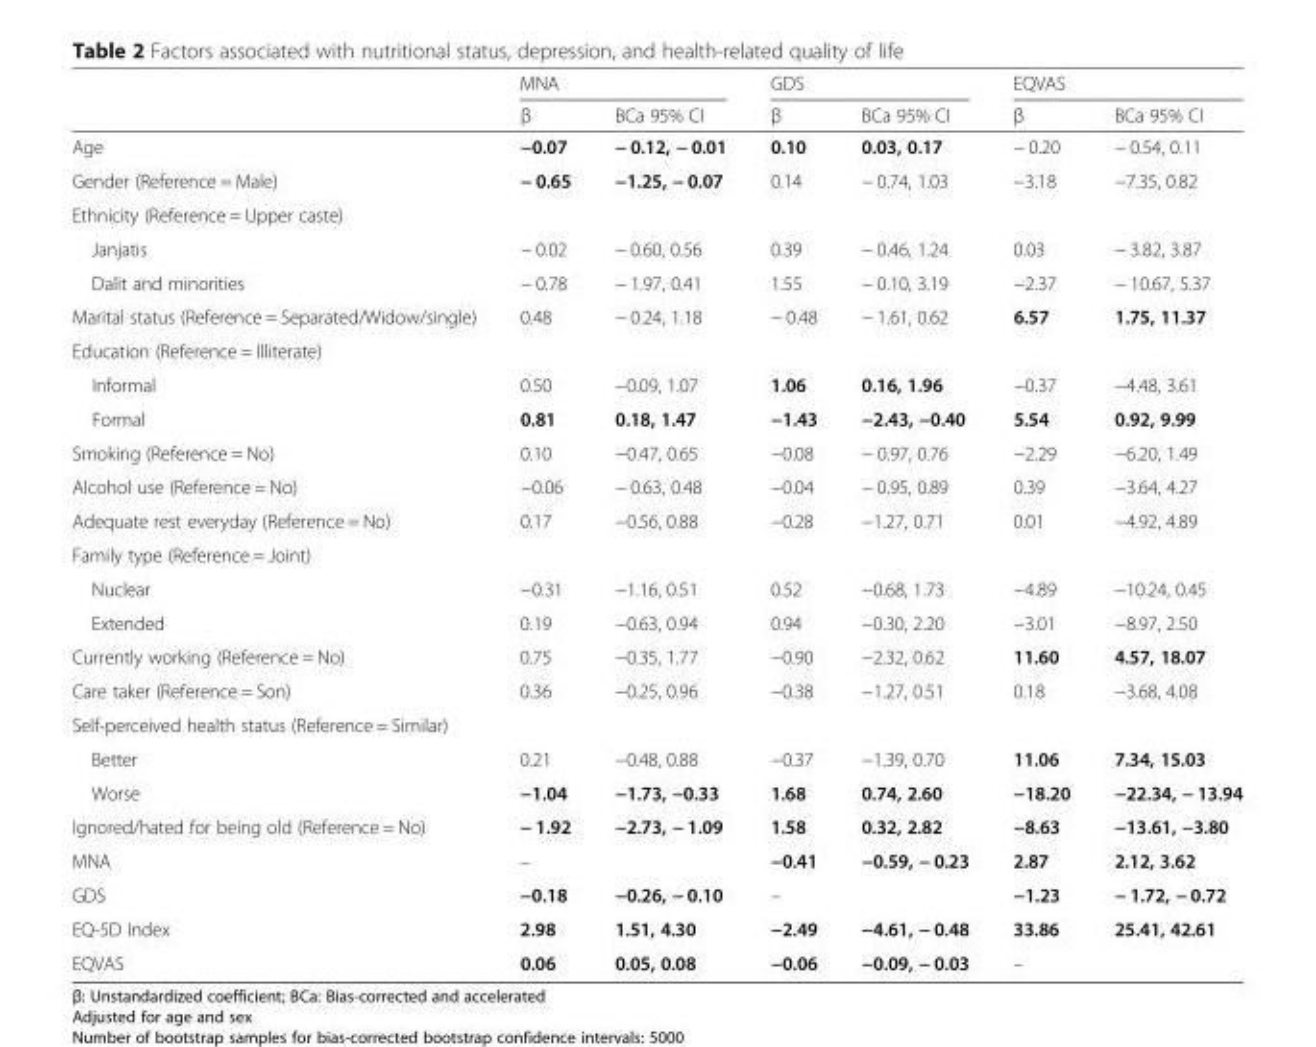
<table><thead><tr><td rowspan="2"></td><td colspan="2">MNA</td><td colspan="2">GDS</td><td colspan="2">EQVAS</td></tr><tr><td>β</td><td>BCa 95% CI</td><td>β</td><td>BCa 95% CI</td><td>β</td><td>BCa 95% CI</td></tr></thead><tbody><tr><td>Age</td><td>−0.07</td><td>− 0.12, − 0.01</td><td>0.10</td><td>0.03, 0.17</td><td>− 0.20</td><td>− 0.54, 0.11</td></tr><tr><td>Gender (Reference = Male)</td><td>− 0.65</td><td>−1.25, − 0.07</td><td>0.14</td><td>− 0.74, 1.03</td><td>−3.18</td><td>−7.35, 0.82</td></tr><tr><td colspan="7">Ethnicity (Reference = Upper caste)</td></tr><tr><td>Janjatis</td><td>− 0.02</td><td>− 0.60, 0.56</td><td>0.39</td><td>− 0.46, 1.24</td><td>0.03</td><td>− 3.82, 3.87</td></tr><tr><td>Dalit and minorities</td><td>− 0.78</td><td>− 1.97, 0.41</td><td>1.55</td><td>− 0.10, 3.19</td><td>−2.37</td><td>− 10.67, 5.37</td></tr><tr><td>Marital status (Reference = Separated/Widow/single)</td><td>0.48</td><td>− 0.24, 1.18</td><td>− 0.48</td><td>− 1.61, 0.62</td><td>6.57</td><td>1.75, 11.37</td></tr><tr><td colspan="7">Education (Reference = Illiterate)</td></tr><tr><td>Informal</td><td>0.50</td><td>−0.09, 1.07</td><td>1.06</td><td>0.16, 1.96</td><td>−0.37</td><td>−4.48, 3.61</td></tr><tr><td>Formal</td><td>0.81</td><td>0.18, 1.47</td><td>−1.43</td><td>−2.43, −0.40</td><td>5.54</td><td>0.92, 9.99</td></tr><tr><td>Smoking (Reference = No)</td><td>0.10</td><td>−0.47, 0.65</td><td>−0.08</td><td>− 0.97, 0.76</td><td>−2.29</td><td>−6.20, 1.49</td></tr><tr><td>Alcohol use (Reference = No)</td><td>−0.06</td><td>− 0.63, 0.48</td><td>−0.04</td><td>− 0.95, 0.89</td><td>0.39</td><td>−3.64, 4.27</td></tr><tr><td>Adequate rest everyday (Reference = No)</td><td>0.17</td><td>−0.56, 0.88</td><td>−0.28</td><td>−1.27, 0.71</td><td>0.01</td><td>−4.92, 4.89</td></tr><tr><td colspan="7">Family type (Reference = Joint)</td></tr><tr><td>Nuclear</td><td>−0.31</td><td>−1.16, 0.51</td><td>0.52</td><td>−0.68, 1.73</td><td>−4.89</td><td>−10.24, 0.45</td></tr><tr><td>Extended</td><td>0.19</td><td>−0.63, 0.94</td><td>0.94</td><td>−0.30, 2.20</td><td>−3.01</td><td>−8.97, 2.50</td></tr><tr><td>Currently working (Reference = No)</td><td>0.75</td><td>−0.35, 1.77</td><td>−0.90</td><td>−2.32, 0.62</td><td>11.60</td><td>4.57, 18.07</td></tr><tr><td>Care taker (Reference = Son)</td><td>0.36</td><td>−0.25, 0.96</td><td>−0.38</td><td>−1.27, 0.51</td><td>0.18</td><td>−3.68, 4.08</td></tr><tr><td colspan="7">Self-perceived health status (Reference = Similar)</td></tr><tr><td>Better</td><td>0.21</td><td>−0.48, 0.88</td><td>−0.37</td><td>−1.39, 0.70</td><td>11.06</td><td>7.34, 15.03</td></tr><tr><td>Worse</td><td>−1.04</td><td>−1.73, −0.33</td><td>1.68</td><td>0.74, 2.60</td><td>−18.20</td><td>−22.34, − 13.94</td></tr><tr><td>Ignored/hated for being old (Reference = No)</td><td>− 1.92</td><td>−2.73, − 1.09</td><td>1.58</td><td>0.32, 2.82</td><td>−8.63</td><td>−13.61, −3.80</td></tr><tr><td>MNA</td><td colspan="2">–</td><td>−0.41</td><td>−0.59, − 0.23</td><td>2.87</td><td>2.12, 3.62</td></tr><tr><td>GDS</td><td>−0.18</td><td>−0.26, − 0.10</td><td colspan="2">–</td><td>−1.23</td><td>− 1.72, − 0.72</td></tr><tr><td>EQ-5D Index</td><td>2.98</td><td>1.51, 4.30</td><td>−2.49</td><td>−4.61, − 0.48</td><td>33.86</td><td>25.41, 42.61</td></tr><tr><td>EQVAS</td><td>0.06</td><td>0.05, 0.08</td><td>−0.06</td><td>−0.09, − 0.03</td><td colspan="2">–</td></tr></tbody></table>